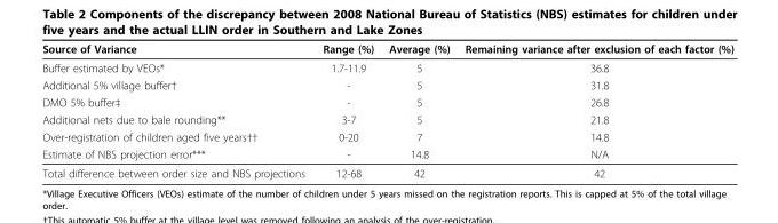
<table><thead><tr><td>Source of Variance</td><td>Range (%)</td><td>Average (%)</td><td>Remaining variance after exclusion of each factor (%)</td></tr></thead><tbody><tr><td>Buffer estimated by VEOs*</td><td>1.7-11.9</td><td>5</td><td>36.8</td></tr><tr><td>Additional 5% village buffer†</td><td>-</td><td>5</td><td>31.8</td></tr><tr><td>DMO 5% buffer‡</td><td>-</td><td>5</td><td>26.8</td></tr><tr><td>Additional nets due to bale rounding**</td><td>3-7</td><td>5</td><td>21.8</td></tr><tr><td>Over-registration of children aged five years††</td><td>0-20</td><td>7</td><td>14.8</td></tr><tr><td>Estimate of NBS projection error***</td><td>-</td><td>14.8</td><td>N/A</td></tr><tr><td>Total difference between order size and NBS projections</td><td>12-68</td><td>42</td><td>42</td></tr></tbody></table>